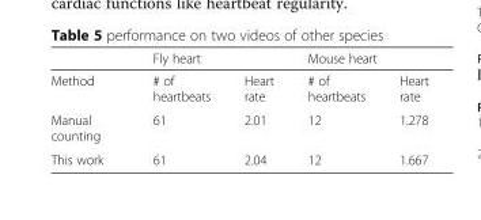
<table><thead><tr><td rowspan="2">Method</td><td colspan="2">Fly heart</td><td colspan="2">Mouse heart</td></tr><tr><td># of heartbeats</td><td>Heart rate</td><td># of heartbeats</td><td>Heart rate</td></tr></thead><tbody><tr><td>Manual counting</td><td>61</td><td>2.01</td><td>12</td><td>1.278</td></tr><tr><td>This work</td><td>61</td><td>2.04</td><td>12</td><td>1.667</td></tr></tbody></table>